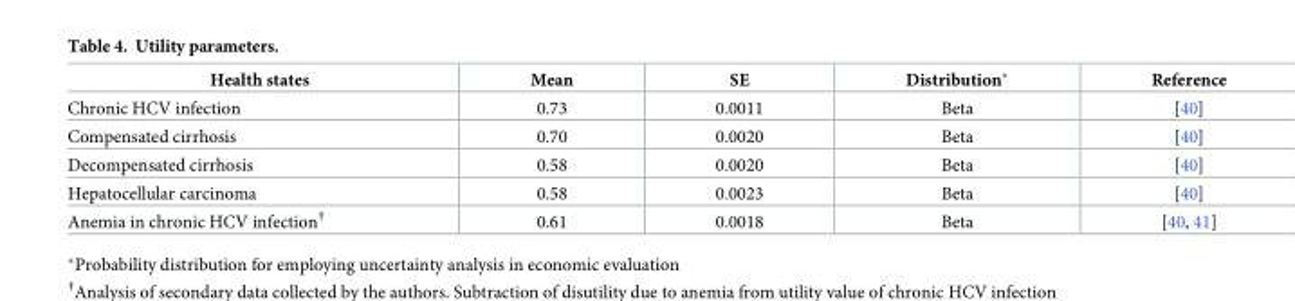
<table><thead><tr><td>Health states</td><td>Mean</td><td>SE</td><td>Distribution*</td><td>Reference</td></tr></thead><tbody><tr><td>Chronic HCV infection</td><td>0.73</td><td>0.0011</td><td>Beta</td><td>[40]</td></tr><tr><td>Compensated cirrhosis</td><td>0.70</td><td>0.0020</td><td>Beta</td><td>[40]</td></tr><tr><td>Decompensated cirrhosis</td><td>0.58</td><td>0.0020</td><td>Beta</td><td>[40]</td></tr><tr><td>Hepatocellular carcinoma</td><td>0.58</td><td>0.0023</td><td>Beta</td><td>[40]</td></tr><tr><td>Anemia in chronic HCV infection<sup>†</sup></td><td>0.61</td><td>0.0018</td><td>Beta</td><td>[40, 41]</td></tr></tbody></table>